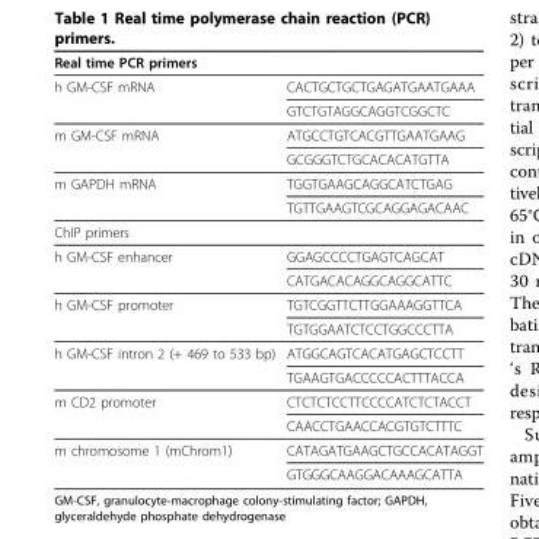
<table><thead><tr><td colspan="2">Real time PCR primers</td></tr><tr><td>h GM-CSF mRNA</td><td>CACTGCTGCTGAGATGAATGAAA</td></tr></thead><tbody><tr><td></td><td>GTCTGTAGGCAGGTCGGCTC</td></tr><tr><td rowspan="2">m GM-CSF mRNA</td><td>ATGCCTGTCACGTTGAATGAAG</td></tr><tr><td>GCGGGTCTGCACACATGTTA</td></tr><tr><td rowspan="2">m GAPDH mRNA</td><td>TGGTGAAGCAGGCATCTGAG</td></tr><tr><td>TGTTGAAGTCGCAGGAGACAAC</td></tr><tr><td colspan="2">ChIP primers</td></tr><tr><td rowspan="2">h GM-CSF enhancer</td><td>GGAGCCCCTGAGTCAGCAT</td></tr><tr><td>CATGACACAGGCAGGCATTC</td></tr><tr><td rowspan="2">h GM-CSF promoter</td><td>TGTCGGTTCTTGGAAAGGTTCA</td></tr><tr><td>TGTGGAATCTCCTGGCCCTTA</td></tr><tr><td rowspan="2">h GM-CSF intron 2 (+ 469 to 533 bp)</td><td>ATGGCAGTCACATGAGCTCCTT</td></tr><tr><td>TGAAGTGACCCCCACTTTACCA</td></tr><tr><td rowspan="2">m CD2 promoter</td><td>CTCTCTCCTTCCCCATCTCTACCT</td></tr><tr><td>CAACCTGAACCACGTGTCTTTC</td></tr><tr><td rowspan="2">m chromosome 1 (mChrom1)</td><td>CATAGATGAAGCTGCCACATAGGT</td></tr><tr><td>GTGGGCAAGGACAAAGCATTA</td></tr></tbody></table>